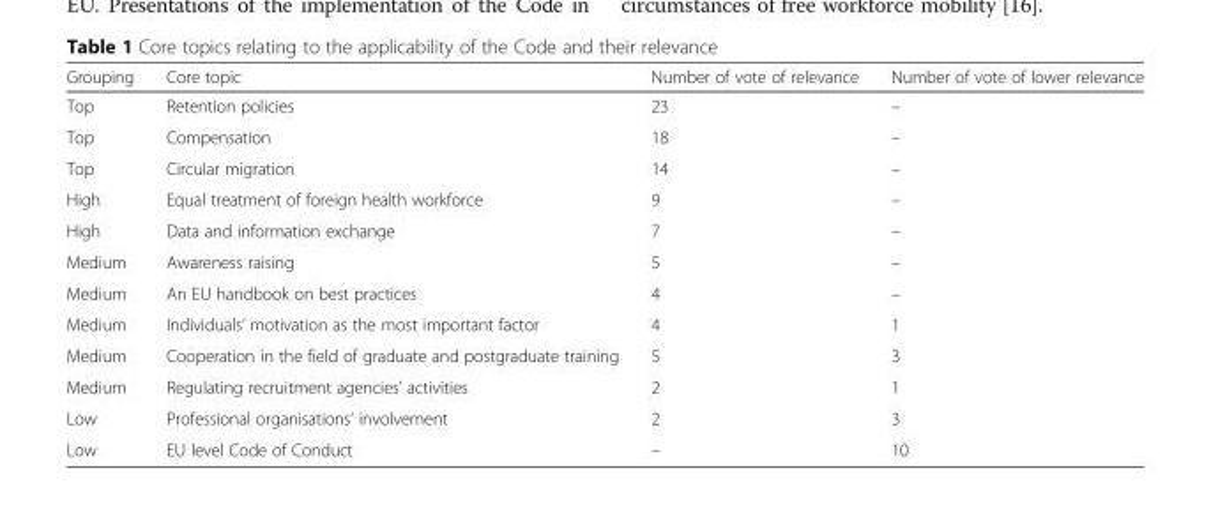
<table><thead><tr><td>Grouping</td><td>Core topic</td><td>Number of vote of relevance</td><td>Number of vote of lower relevance</td></tr></thead><tbody><tr><td>Top</td><td>Retention policies</td><td>23</td><td>–</td></tr><tr><td>Top</td><td>Compensation</td><td>18</td><td>–</td></tr><tr><td>Top</td><td>Circular migration</td><td>14</td><td>–</td></tr><tr><td>High</td><td>Equal treatment of foreign health workforce</td><td>9</td><td>–</td></tr><tr><td>High</td><td>Data and information exchange</td><td>7</td><td>–</td></tr><tr><td>Medium</td><td>Awareness raising</td><td>5</td><td>–</td></tr><tr><td>Medium</td><td>An EU handbook on best practices</td><td>4</td><td>–</td></tr><tr><td>Medium</td><td>Individuals’ motivation as the most important factor</td><td>4</td><td>1</td></tr><tr><td>Medium</td><td>Cooperation in the field of graduate and postgraduate training</td><td>5</td><td>3</td></tr><tr><td>Medium</td><td>Regulating recruitment agencies’ activities</td><td>2</td><td>1</td></tr><tr><td>Low</td><td>Professional organisations’ involvement</td><td>2</td><td>3</td></tr><tr><td>Low</td><td>EU level Code of Conduct</td><td>–</td><td>10</td></tr></tbody></table>